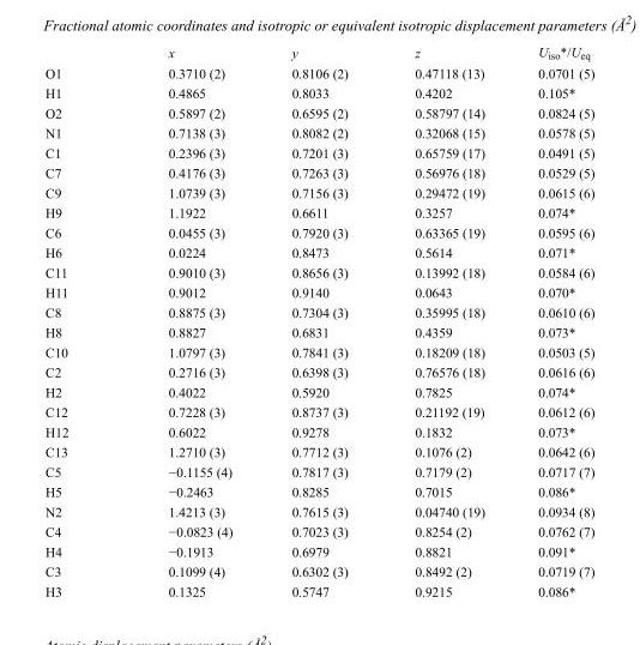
<table><thead><tr><td></td><td>x</td><td>y</td><td>z</td><td>U<sub>iso</sub>*/U<sub>eq</sub></td></tr></thead><tbody><tr><td>O1</td><td>0.3710 (2)</td><td>0.8106 (2)</td><td>0.47118 (13)</td><td>0.0701 (5)</td></tr><tr><td>H1</td><td>0.4865</td><td>0.8033</td><td>0.4202</td><td>0.105*</td></tr><tr><td>O2</td><td>0.5897 (2)</td><td>0.6595 (2)</td><td>0.58797 (14)</td><td>0.0824 (5)</td></tr><tr><td>N1</td><td>0.7138 (3)</td><td>0.8082 (2)</td><td>0.32068 (15)</td><td>0.0578 (5)</td></tr><tr><td>C1</td><td>0.2396 (3)</td><td>0.7201 (3)</td><td>0.65759 (17)</td><td>0.0491 (5)</td></tr><tr><td>C7</td><td>0.4176 (3)</td><td>0.7263 (3)</td><td>0.56976 (18)</td><td>0.0529 (5)</td></tr><tr><td>C9</td><td>1.0739 (3)</td><td>0.7156 (3)</td><td>0.29472 (19)</td><td>0.0615 (6)</td></tr><tr><td>H9</td><td>1.1922</td><td>0.6611</td><td>0.3257</td><td>0.074*</td></tr><tr><td>C6</td><td>0.0455 (3)</td><td>0.7920 (3)</td><td>0.63365 (19)</td><td>0.0595 (6)</td></tr><tr><td>H6</td><td>0.0224</td><td>0.8473</td><td>0.5614</td><td>0.071*</td></tr><tr><td>C11</td><td>0.9010 (3)</td><td>0.8656 (3)</td><td>0.13992 (18)</td><td>0.0584 (6)</td></tr><tr><td>H11</td><td>0.9012</td><td>0.9140</td><td>0.0643</td><td>0.070*</td></tr><tr><td>C8</td><td>0.8875 (3)</td><td>0.7304 (3)</td><td>0.35995 (18)</td><td>0.0610 (6)</td></tr><tr><td>H8</td><td>0.8827</td><td>0.6831</td><td>0.4359</td><td>0.073*</td></tr><tr><td>C10</td><td>1.0797 (3)</td><td>0.7841 (3)</td><td>0.18209 (18)</td><td>0.0503 (5)</td></tr><tr><td>C2</td><td>0.2716 (3)</td><td>0.6398 (3)</td><td>0.76576 (18)</td><td>0.0616 (6)</td></tr><tr><td>H2</td><td>0.4022</td><td>0.5920</td><td>0.7825</td><td>0.074*</td></tr><tr><td>C12</td><td>0.7228 (3)</td><td>0.8737 (3)</td><td>0.21192 (19)</td><td>0.0612 (6)</td></tr><tr><td>H12</td><td>0.6022</td><td>0.9278</td><td>0.1832</td><td>0.073*</td></tr><tr><td>C13</td><td>1.2710 (3)</td><td>0.7712 (3)</td><td>0.1076 (2)</td><td>0.0642 (6)</td></tr><tr><td>C5</td><td>−0.1155 (4)</td><td>0.7817 (3)</td><td>0.7179 (2)</td><td>0.0717 (7)</td></tr><tr><td>H5</td><td>−0.2463</td><td>0.8285</td><td>0.7015</td><td>0.086*</td></tr><tr><td>N2</td><td>1.4213 (3)</td><td>0.7615 (3)</td><td>0.04740 (19)</td><td>0.0934 (8)</td></tr><tr><td>C4</td><td>−0.0823 (4)</td><td>0.7023 (3)</td><td>0.8254 (2)</td><td>0.0762 (7)</td></tr><tr><td>H4</td><td>−0.1913</td><td>0.6979</td><td>0.8821</td><td>0.091*</td></tr><tr><td>C3</td><td>0.1099 (4)</td><td>0.6302 (3)</td><td>0.8492 (2)</td><td>0.0719 (7)</td></tr><tr><td>H3</td><td>0.1325</td><td>0.5747</td><td>0.9215</td><td>0.086*</td></tr></tbody></table>